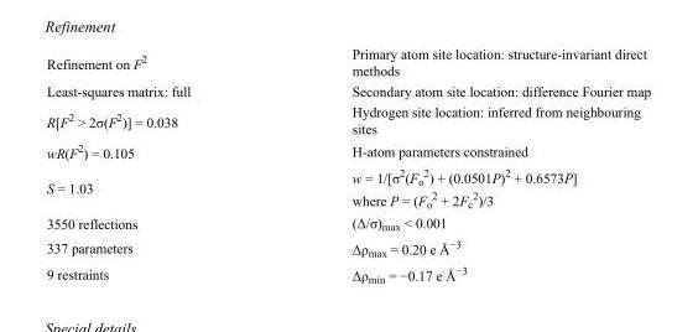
<table><tbody><tr><td>Refinement on F<sup>2</sup></td><td>Primary atom site location: structure-invariant direct methods</td></tr><tr><td>Least-squares matrix: full</td><td>Secondary atom site location: difference Fourier map</td></tr><tr><td>R[F<sup>2</sup> &gt; 2σ(F<sup>2</sup>)] = 0.038</td><td>Hydrogen site location: inferred from neighbouring sites</td></tr><tr><td>wR(F<sup>2</sup>) = 0.105</td><td>H-atom parameters constrained</td></tr><tr><td>S = 1.03</td><td>w = 1/[σ<sup>2</sup>(F<sub>o</sub> <sup>2</sup>) + (0.0501P)<sup>2</sup> + 0.6573P] where P = (F<sub>o</sub> <sup>2</sup> + 2F<sub>c</sub> <sup>2</sup>)/3</td></tr><tr><td>3550 reflections</td><td>(Δ/σ)<sub>max</sub> &lt; 0.001</td></tr><tr><td>337 parameters</td><td>Δρ<sub>max</sub> = 0.20 e Å<sup>−3</sup></td></tr><tr><td>9 restraints</td><td>Δρ<sub>min</sub> = −0.17 e Å<sup>−3</sup></td></tr></tbody></table>